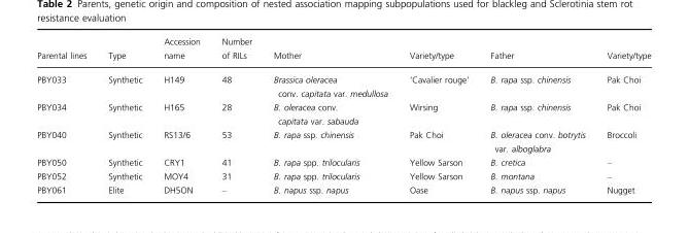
<table><thead><tr><td>Parental lines</td><td>Type</td><td>Accession name</td><td>Number of RILs</td><td>Mother</td><td>Variety/type</td><td>Father</td><td>Variety/type</td></tr></thead><tbody><tr><td>PBY033</td><td>Synthetic</td><td>H149</td><td>48</td><td>Brassica oleracea conv. capitata var. medullosa</td><td>‘Cavalier rouge’</td><td>B. rapa ssp. chinensis</td><td>Pak Choi</td></tr><tr><td>PBY034</td><td>Synthetic</td><td>H165</td><td>28</td><td>B. oleracea conv. capitata var. sabauda</td><td>Wirsing</td><td>B. rapa ssp. chinensis</td><td>Pak Choi</td></tr><tr><td>PBY040</td><td>Synthetic</td><td>RS13/6</td><td>53</td><td>B. rapa ssp. chinensis</td><td>Pak Choi</td><td>B. oleracea conv. botrytis var. alboglabra</td><td>Broccoli</td></tr><tr><td>PBY050</td><td>Synthetic</td><td>CRY1</td><td>41</td><td>B. rapa spp. trilocularis</td><td>Yellow Sarson</td><td>B. cretica</td><td>–</td></tr><tr><td>PBY052</td><td>Synthetic</td><td>MOY4</td><td>31</td><td>B. rapa spp. trilocularis</td><td>Yellow Sarson</td><td>B. montana</td><td>–</td></tr><tr><td>PBY061</td><td>Elite</td><td>DH5ON</td><td>–</td><td>B. napus ssp. napus</td><td>Oase</td><td>B. napus ssp. napus</td><td>Nugget</td></tr></tbody></table>